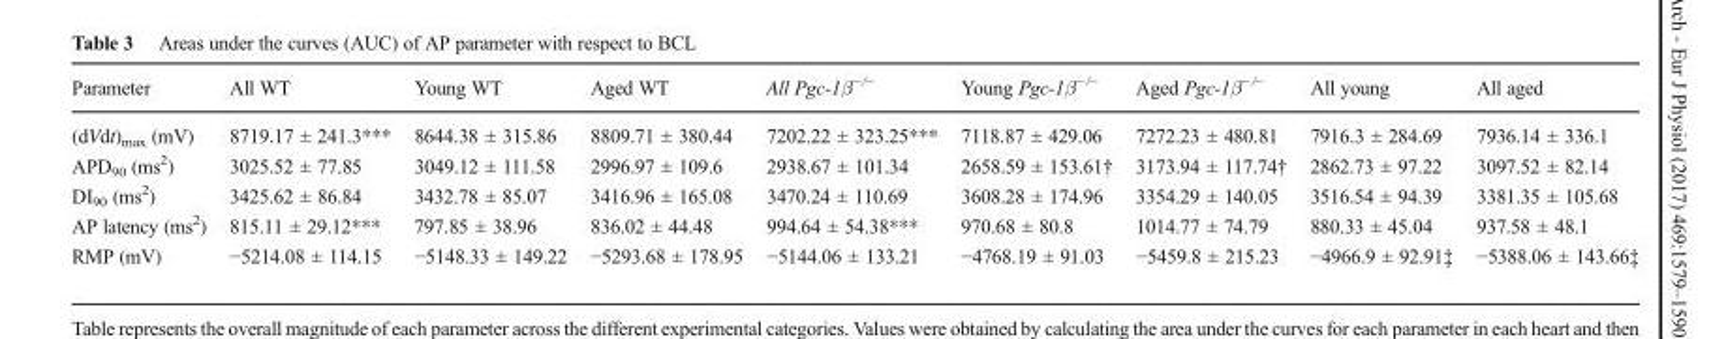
<table><thead><tr><td>Parameter</td><td>All WT</td><td>Young WT</td><td>Aged WT</td><td>All Pgc-1β<sup>−/−</sup></td><td>Young Pgc-1β<sup>−/−</sup></td><td>Aged Pgc-1β<sup>−/−</sup></td><td>All young</td><td>All aged</td></tr></thead><tbody><tr><td>(dVdt)<sub>max</sub> (mV)</td><td>8719.17 ± 241.3***</td><td>8644.38 ± 315.86</td><td>8809.71 ± 380.44</td><td>7202.22 ± 323.25***</td><td>7118.87 ± 429.06</td><td>7272.23 ± 480.81</td><td>7916.3 ± 284.69</td><td>7936.14 ± 336.1</td></tr><tr><td>APD<sub>90</sub> (ms<sup>2</sup>)</td><td>3025.52 ± 77.85</td><td>3049.12 ± 111.58</td><td>2996.97 ± 109.6</td><td>2938.67 ± 101.34</td><td>2658.59 ± 153.61†</td><td>3173.94 ± 117.74†</td><td>2862.73 ± 97.22</td><td>3097.52 ± 82.14</td></tr><tr><td>DI<sub>90</sub> (ms<sup>2</sup>)</td><td>3425.62 ± 86.84</td><td>3432.78 ± 85.07</td><td>3416.96 ± 165.08</td><td>3470.24 ± 110.69</td><td>3608.28 ± 174.96</td><td>3354.29 ± 140.05</td><td>3516.54 ± 94.39</td><td>3381.35 ± 105.68</td></tr><tr><td>AP latency (ms<sup>2</sup>)</td><td>815.11 ± 29.12***</td><td>797.85 ± 38.96</td><td>836.02 ± 44.48</td><td>994.64 ± 54.38***</td><td>970.68 ± 80.8</td><td>1014.77 ± 74.79</td><td>880.33 ± 45.04</td><td>937.58 ± 48.1</td></tr><tr><td>RMP (mV)</td><td>−5214.08 ± 114.15</td><td>−5148.33 ± 149.22</td><td>−5293.68 ± 178.95</td><td>−5144.06 ± 133.21</td><td>−4768.19 ± 91.03</td><td>−5459.8 ± 215.23</td><td>−4966.9 ± 92.91‡</td><td>−5388.06 ± 143.66‡</td></tr></tbody></table>